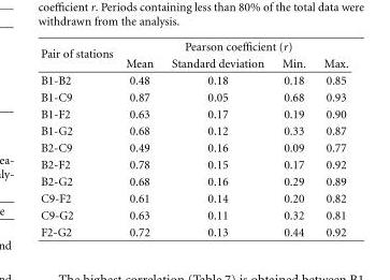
<table><thead><tr><td rowspan="2">Pair of stations</td><td colspan="4">Pearson coefficient (r)</td></tr><tr><td>Mean</td><td>Standard deviation</td><td>Min.</td><td>Max.</td></tr></thead><tbody><tr><td>B1-B2</td><td>0.48</td><td>0.18</td><td>0.18</td><td>0.85</td></tr><tr><td>B1-C9</td><td>0.87</td><td>0.05</td><td>0.68</td><td>0.93</td></tr><tr><td>B1-F2</td><td>0.63</td><td>0.17</td><td>0.19</td><td>0.90</td></tr><tr><td>B1-G2</td><td>0.68</td><td>0.12</td><td>0.33</td><td>0.87</td></tr><tr><td>B2-C9</td><td>0.49</td><td>0.16</td><td>0.09</td><td>0.77</td></tr><tr><td>B2-F2</td><td>0.78</td><td>0.15</td><td>0.17</td><td>0.92</td></tr><tr><td>B2-G2</td><td>0.68</td><td>0.16</td><td>0.29</td><td>0.89</td></tr><tr><td>C9-F2</td><td>0.61</td><td>0.14</td><td>0.20</td><td>0.82</td></tr><tr><td>C9-G2</td><td>0.63</td><td>0.11</td><td>0.32</td><td>0.81</td></tr><tr><td>F2-G2</td><td>0.72</td><td>0.13</td><td>0.44</td><td>0.92</td></tr></tbody></table>